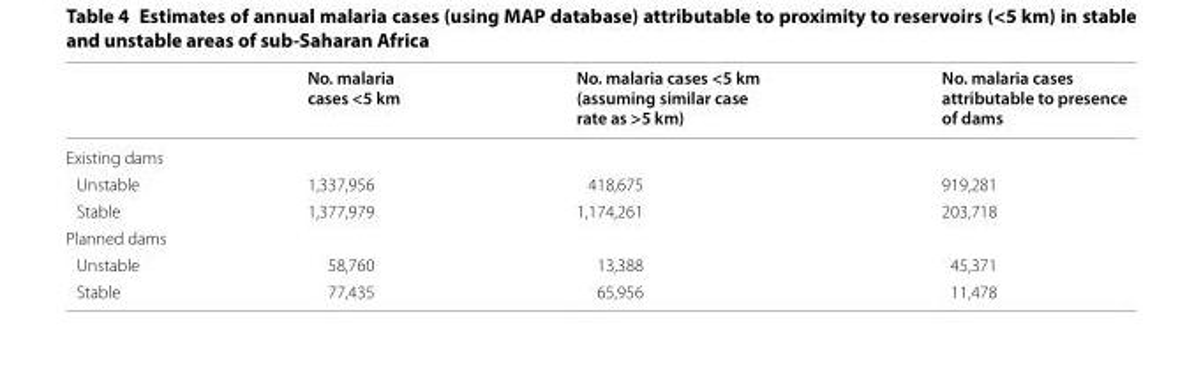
<table><thead><tr><td></td><td>No. malaria cases &lt;5 km</td><td>No. malaria cases &lt;5 km (assuming similar case rate as &gt;5 km)</td><td>No. malaria cases attributable to presence of dams</td></tr></thead><tbody><tr><td colspan="4">Existing dams</td></tr><tr><td>Unstable</td><td>1,337,956</td><td>418,675</td><td>919,281</td></tr><tr><td>Stable</td><td>1,377,979</td><td>1,174,261</td><td>203,718</td></tr><tr><td colspan="4">Planned dams</td></tr><tr><td>Unstable</td><td>58,760</td><td>13,388</td><td>45,371</td></tr><tr><td>Stable</td><td>77,435</td><td>65,956</td><td>11,478</td></tr></tbody></table>